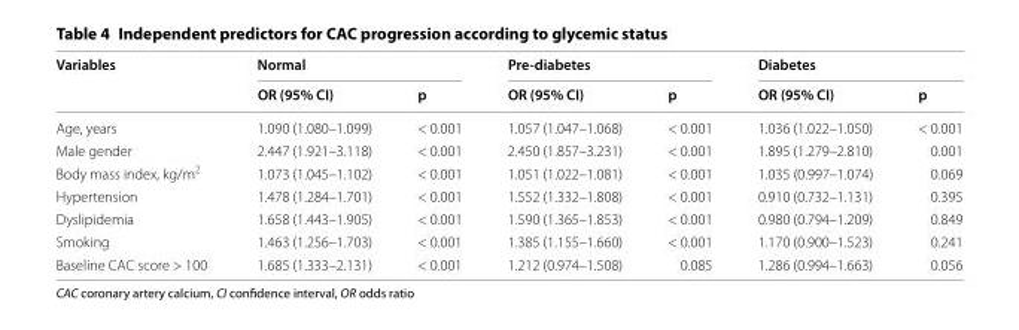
<table><thead><tr><td rowspan="2">Variables</td><td colspan="2">Normal</td><td colspan="2">Pre-diabetes</td><td colspan="2">Diabetes</td></tr><tr><td>OR (95% CI)</td><td>p</td><td>OR (95% CI)</td><td>p</td><td>OR (95% CI)</td><td>p</td></tr></thead><tbody><tr><td>Age, years</td><td>1.090 (1.080–1.099)</td><td>&lt; 0.001</td><td>1.057 (1.047–1.068)</td><td>&lt; 0.001</td><td>1.036 (1.022–1.050)</td><td>&lt; 0.001</td></tr><tr><td>Male gender</td><td>2.447 (1.921–3.118)</td><td>&lt; 0.001</td><td>2.450 (1.857–3.231)</td><td>&lt; 0.001</td><td>1.895 (1.279–2.810)</td><td>0.001</td></tr><tr><td>Body mass index, kg/m<sup>2</sup></td><td>1.073 (1.045–1.102)</td><td>&lt; 0.001</td><td>1.051 (1.022–1.081)</td><td>&lt; 0.001</td><td>1.035 (0.997–1.074)</td><td>0.069</td></tr><tr><td>Hypertension</td><td>1.478 (1.284–1.701)</td><td>&lt; 0.001</td><td>1.552 (1.332–1.808)</td><td>&lt; 0.001</td><td>0.910 (0.732–1.131)</td><td>0.395</td></tr><tr><td>Dyslipidemia</td><td>1.658 (1.443–1.905)</td><td>&lt; 0.001</td><td>1.590 (1.365–1.853)</td><td>&lt; 0.001</td><td>0.980 (0.794–1.209)</td><td>0.849</td></tr><tr><td>Smoking</td><td>1.463 (1.256–1.703)</td><td>&lt; 0.001</td><td>1.385 (1.155–1.660)</td><td>&lt; 0.001</td><td>1.170 (0.900–1.523)</td><td>0.241</td></tr><tr><td>Baseline CAC score &gt; 100</td><td>1.685 (1.333–2.131)</td><td>&lt; 0.001</td><td>1.212 (0.974–1.508)</td><td>0.085</td><td>1.286 (0.994–1.663)</td><td>0.056</td></tr></tbody></table>